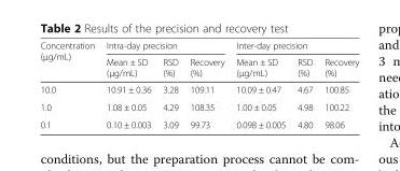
<table><thead><tr><td rowspan="2">Concentration (μg/mL)</td><td colspan="3">Intra-day precision</td><td colspan="3">Inter-day precision</td></tr><tr><td>Mean ± SD (μg/mL)</td><td>RSD (%)</td><td>Recovery (%)</td><td>Mean ± SD (μg/mL)</td><td>RSD (%)</td><td>Recovery (%)</td></tr></thead><tbody><tr><td>10.0</td><td>10.91 ± 0.36</td><td>3.28</td><td>109.11</td><td>10.09 ± 0.47</td><td>4.67</td><td>100.85</td></tr><tr><td>1.0</td><td>1.08 ± 0.05</td><td>4.29</td><td>108.35</td><td>1.00 ± 0.05</td><td>4.98</td><td>100.22</td></tr><tr><td>0.1</td><td>0.10 ± 0.003</td><td>3.09</td><td>99.73</td><td>0.098 ± 0.005</td><td>4.80</td><td>98.06</td></tr></tbody></table>